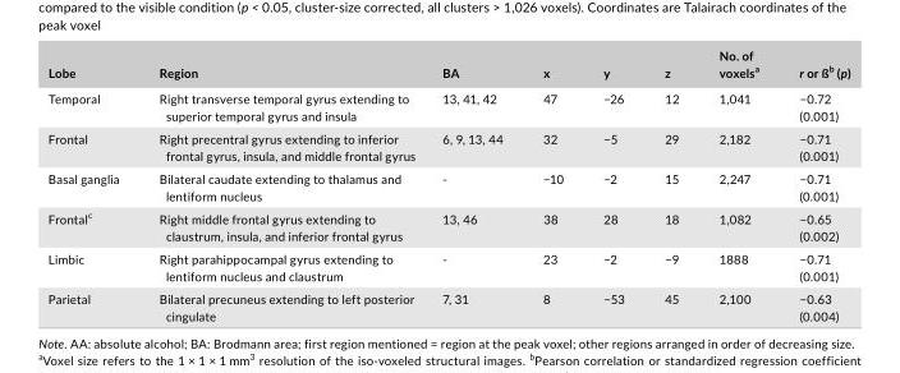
<table><thead><tr><td>Lobe</td><td>Region</td><td>BA</td><td>x</td><td>y</td><td>z</td><td>No. of voxels<sup>a</sup></td><td>r or ß<sup>b</sup> (p)</td></tr></thead><tbody><tr><td>Temporal</td><td>Right transverse temporal gyrus extending to superior temporal gyrus and insula</td><td>13, 41, 42</td><td>47</td><td>−26</td><td>12</td><td>1,041</td><td>−0.72 (0.001)</td></tr><tr><td>Frontal</td><td>Right precentral gyrus extending to inferior frontal gyrus, insula, and middle frontal gyrus</td><td>6, 9, 13, 44</td><td>32</td><td>−5</td><td>29</td><td>2,182</td><td>−0.71 (0.001)</td></tr><tr><td>Basal ganglia</td><td>Bilateral caudate extending to thalamus and lentiform nucleus</td><td>-</td><td>−10</td><td>−2</td><td>15</td><td>2,247</td><td>−0.71 (0.001)</td></tr><tr><td>Frontal<sup>c</sup></td><td>Right middle frontal gyrus extending to claustrum, insula, and inferior frontal gyrus</td><td>13, 46</td><td>38</td><td>28</td><td>18</td><td>1,082</td><td>−0.65 (0.002)</td></tr><tr><td>Limbic</td><td>Right parahippocampal gyrus extending to lentiform nucleus and claustrum</td><td>-</td><td>23</td><td>−2</td><td>−9</td><td>1888</td><td>−0.71 (0.001)</td></tr><tr><td>Parietal</td><td>Bilateral precuneus extending to left posterior cingulate</td><td>7, 31</td><td>8</td><td>−53</td><td>45</td><td>2,100</td><td>−0.63 (0.004)</td></tr></tbody></table>